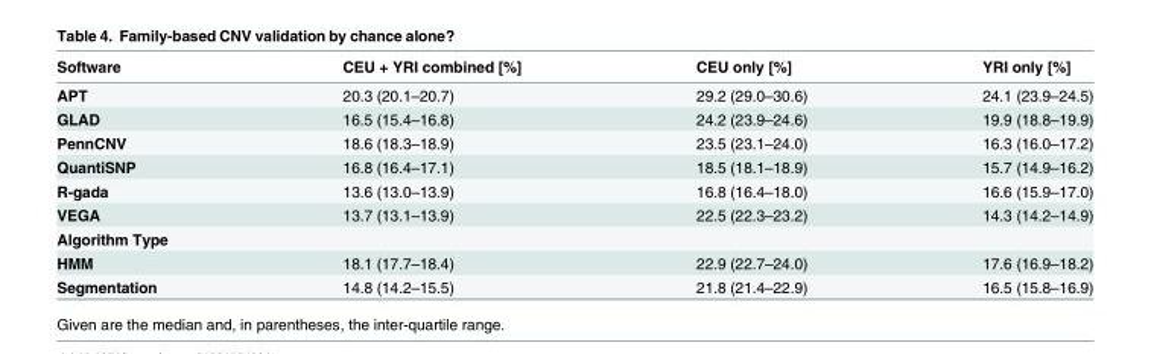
<table><thead><tr><td>Software</td><td>CEU + YRI combined [%]</td><td>CEU only [%]</td><td>YRI only [%]</td></tr></thead><tbody><tr><td>APT</td><td>20.3 (20.1–20.7)</td><td>29.2 (29.0–30.6)</td><td>24.1 (23.9–24.5)</td></tr><tr><td>GLAD</td><td>16.5 (15.4–16.8)</td><td>24.2 (23.9–24.6)</td><td>19.9 (18.8–19.9)</td></tr><tr><td>PennCNV</td><td>18.6 (18.3–18.9)</td><td>23.5 (23.1–24.0)</td><td>16.3 (16.0–17.2)</td></tr><tr><td>QuantiSNP</td><td>16.8 (16.4–17.1)</td><td>18.5 (18.1–18.9)</td><td>15.7 (14.9–16.2)</td></tr><tr><td>R-gada</td><td>13.6 (13.0–13.9)</td><td>16.8 (16.4–18.0)</td><td>16.6 (15.9–17.0)</td></tr><tr><td>VEGA</td><td>13.7 (13.1–13.9)</td><td>22.5 (22.3–23.2)</td><td>14.3 (14.2–14.9)</td></tr><tr><td colspan="4">Algorithm Type</td></tr><tr><td>HMM</td><td>18.1 (17.7–18.4)</td><td>22.9 (22.7–24.0)</td><td>17.6 (16.9–18.2)</td></tr><tr><td>Segmentation</td><td>14.8 (14.2–15.5)</td><td>21.8 (21.4–22.9)</td><td>16.5 (15.8–16.9)</td></tr></tbody></table>